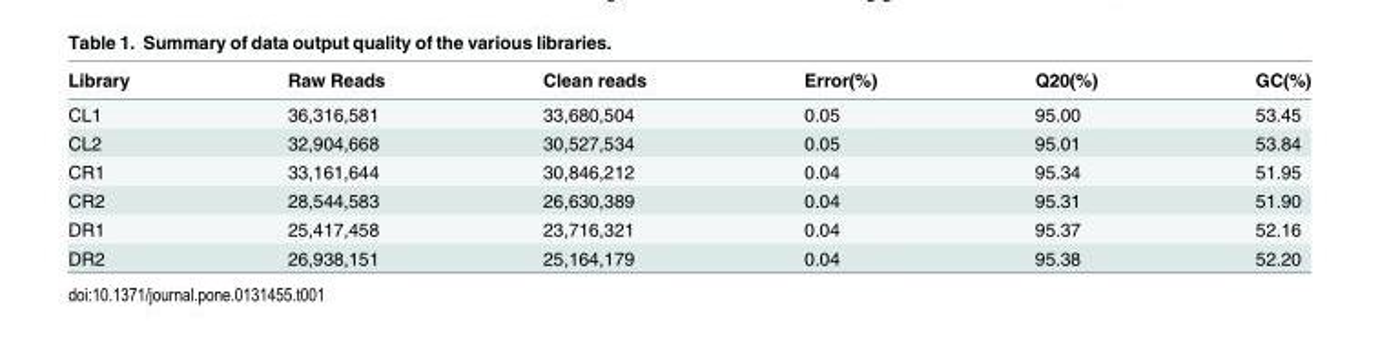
<table><thead><tr><td>Library</td><td>Raw Reads</td><td>Clean reads</td><td>Error(%)</td><td>Q20(%)</td><td>GC(%)</td></tr></thead><tbody><tr><td>CL1</td><td>36,316,581</td><td>33,680,504</td><td>0.05</td><td>95.00</td><td>53.45</td></tr><tr><td>CL2</td><td>32,904,668</td><td>30,527,534</td><td>0.05</td><td>95.01</td><td>53.84</td></tr><tr><td>CR1</td><td>33,161,644</td><td>30,846,212</td><td>0.04</td><td>95.34</td><td>51.95</td></tr><tr><td>CR2</td><td>28,544,583</td><td>26,630,389</td><td>0.04</td><td>95.31</td><td>51.90</td></tr><tr><td>DR1</td><td>25,417,458</td><td>23,716,321</td><td>0.04</td><td>95.37</td><td>52.16</td></tr><tr><td>DR2</td><td>26,938,151</td><td>25,164,179</td><td>0.04</td><td>95.38</td><td>52.20</td></tr></tbody></table>